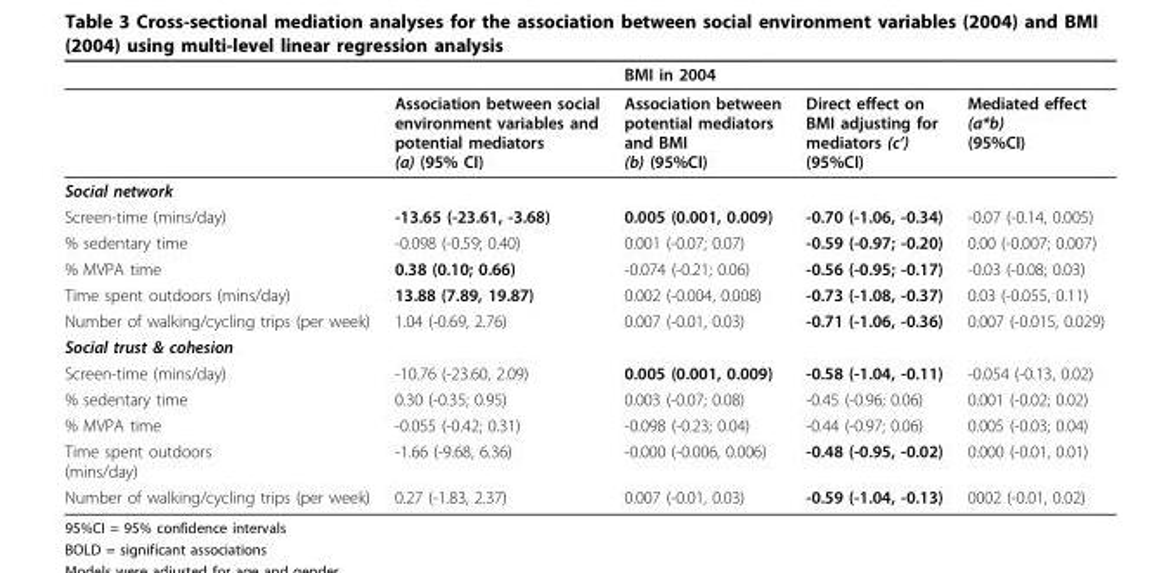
<table><thead><tr><td rowspan="2"></td><td rowspan="2">Association between social environment variables and potential mediators (a) (95% CI)</td><td colspan="3">BMI in 2004</td></tr><tr><td>Association between potential mediators and BMI (b) (95%CI)</td><td>Direct effect on BMI adjusting for mediators (c’) (95%CI)</td><td>Mediated effect (a*b) (95%CI)</td></tr></thead><tbody><tr><td colspan="5">Social network</td></tr><tr><td>Screen-time (mins/day)</td><td>-13.65 (-23.61, -3.68)</td><td>0.005 (0.001, 0.009)</td><td>-0.70 (-1.06, -0.34)</td><td>-0.07 (-0.14, 0.005)</td></tr><tr><td>% sedentary time</td><td>-0.098 (-0.59; 0.40)</td><td>0.001 (-0.07; 0.07)</td><td>-0.59 (-0.97; -0.20)</td><td>0.00 (-0.007; 0.007)</td></tr><tr><td>% MVPA time</td><td>0.38 (0.10; 0.66)</td><td>-0.074 (-0.21; 0.06)</td><td>-0.56 (-0.95; -0.17)</td><td>-0.03 (-0.08; 0.03)</td></tr><tr><td>Time spent outdoors (mins/day)</td><td>13.88 (7.89, 19.87)</td><td>0.002 (-0.004, 0.008)</td><td>-0.73 (-1.08, -0.37)</td><td>0.03 (-0.055, 0.11)</td></tr><tr><td>Number of walking/cycling trips (per week)</td><td>1.04 (-0.69, 2.76)</td><td>0.007 (-0.01, 0.03)</td><td>-0.71 (-1.06, -0.36)</td><td>0.007 (-0.015, 0.029)</td></tr><tr><td colspan="5">Social trust &amp; cohesion</td></tr><tr><td>Screen-time (mins/day)</td><td>-10.76 (-23.60, 2.09)</td><td>0.005 (0.001, 0.009)</td><td>-0.58 (-1.04, -0.11)</td><td>-0.054 (-0.13, 0.02)</td></tr><tr><td>% sedentary time</td><td>0.30 (-0.35; 0.95)</td><td>0.003 (-0.07; 0.08)</td><td>-0.45 (-0.96; 0.06)</td><td>0.001 (-0.02; 0.02)</td></tr><tr><td>% MVPA time</td><td>-0.055 (-0.42; 0.31)</td><td>-0.098 (-0.23; 0.04)</td><td>-0.44 (-0.97; 0.06)</td><td>0.005 (-0.03; 0.04)</td></tr><tr><td>Time spent outdoors (mins/day)</td><td>-1.66 (-9.68, 6.36)</td><td>-0.000 (-0.006, 0.006)</td><td>-0.48 (-0.95, -0.02)</td><td>0.000 (-0.01, 0.01)</td></tr><tr><td>Number of walking/cycling trips (per week)</td><td>0.27 (-1.83, 2.37)</td><td>0.007 (-0.01, 0.03)</td><td>-0.59 (-1.04, -0.13)</td><td>0002 (-0.01, 0.02)</td></tr></tbody></table>